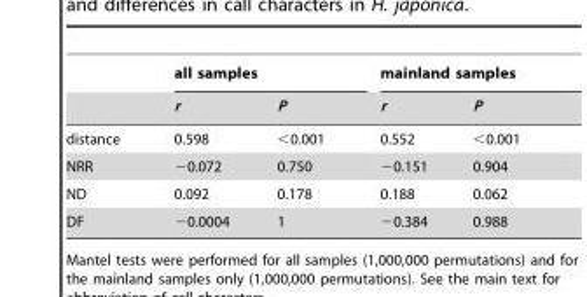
<table><thead><tr><td rowspan="2"></td><td colspan="2">all samples</td><td colspan="2">mainland samples</td></tr><tr><td>r</td><td>P</td><td>r</td><td>P</td></tr></thead><tbody><tr><td>distance</td><td>0.598</td><td>&lt;0.001</td><td>0.552</td><td>&lt;0.001</td></tr><tr><td>NRR</td><td>−0.072</td><td>0.750</td><td>−0.151</td><td>0.904</td></tr><tr><td>ND</td><td>0.092</td><td>0.178</td><td>0.188</td><td>0.062</td></tr><tr><td>DF</td><td>−0.0004</td><td>1</td><td>−0.384</td><td>0.988</td></tr></tbody></table>